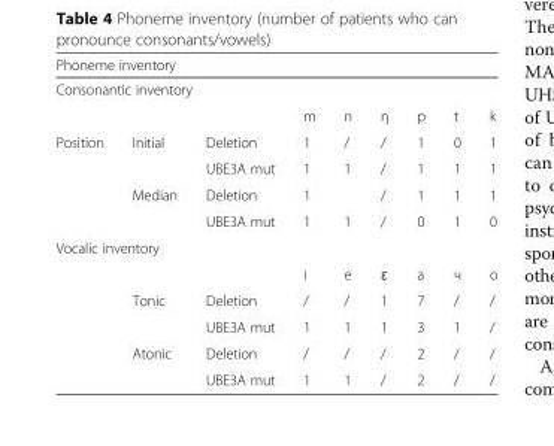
<table><thead><tr><td rowspan="2" colspan="9">Phoneme inventory Consonantic inventory</td></tr><tr></tr><tr><td></td><td></td><td></td><td>m</td><td>n</td><td>η</td><td>p</td><td>t</td><td>k</td></tr></thead><tbody><tr><td rowspan="4">Position</td><td rowspan="2">Initial</td><td>Deletion</td><td>1</td><td>/</td><td>/</td><td>1</td><td>0</td><td>1</td></tr><tr><td>UBE3A mut</td><td>1</td><td>1</td><td>/</td><td>1</td><td>1</td><td>1</td></tr><tr><td rowspan="2">Median</td><td>Deletion</td><td>1</td><td></td><td>/</td><td>1</td><td>1</td><td>1</td></tr><tr><td>UBE3A mut</td><td>1</td><td>1</td><td>/</td><td>0</td><td>1</td><td>0</td></tr><tr><td colspan="9">Vocalic inventory</td></tr><tr><td rowspan="5"></td><td></td><td></td><td>i</td><td>e</td><td>ɛ</td><td>a</td><td>ч</td><td>o</td></tr><tr><td>Tonic</td><td>Deletion</td><td>/</td><td>/</td><td>1</td><td>7</td><td>/</td><td>/</td></tr><tr><td></td><td>UBE3A mut</td><td>1</td><td>1</td><td>1</td><td>3</td><td>1</td><td>/</td></tr><tr><td>Atonic</td><td>Deletion</td><td>/</td><td>/</td><td>/</td><td>2</td><td>/</td><td>/</td></tr><tr><td></td><td>UBE3A mut</td><td>1</td><td>1</td><td>/</td><td>2</td><td>/</td><td>/</td></tr></tbody></table>